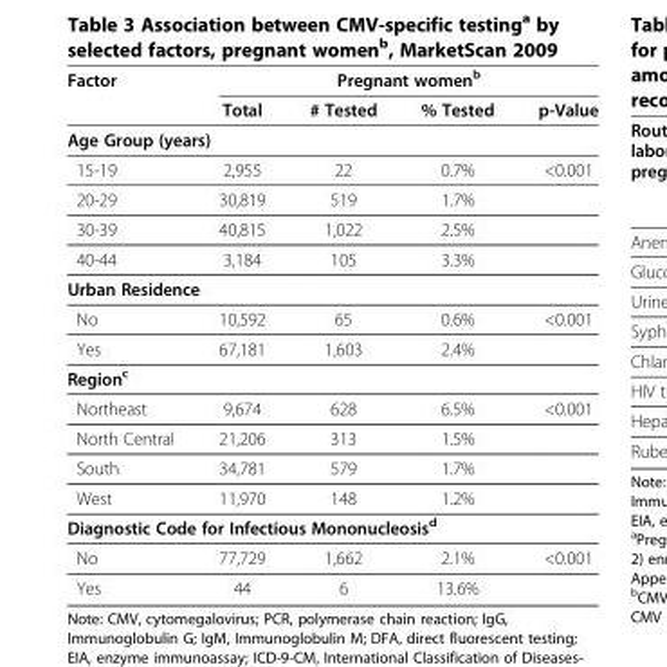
<table><thead><tr><td rowspan="2">Factor</td><td colspan="4">Pregnant women<sup>b</sup></td></tr><tr><td>Total</td><td># Tested</td><td>% Tested</td><td>p-Value</td></tr></thead><tbody><tr><td colspan="5">Age Group (years)</td></tr><tr><td>15-19</td><td>2,955</td><td>22</td><td>0.7%</td><td>&lt;0.001</td></tr><tr><td>20-29</td><td>30,819</td><td>519</td><td>1.7%</td><td></td></tr><tr><td>30-39</td><td>40,815</td><td>1,022</td><td>2.5%</td><td></td></tr><tr><td>40-44</td><td>3,184</td><td>105</td><td>3.3%</td><td></td></tr><tr><td colspan="5">Urban Residence</td></tr><tr><td>No</td><td>10,592</td><td>65</td><td>0.6%</td><td>&lt;0.001</td></tr><tr><td>Yes</td><td>67,181</td><td>1,603</td><td>2.4%</td><td></td></tr><tr><td colspan="5">Region<sup>c</sup></td></tr><tr><td>Northeast</td><td>9,674</td><td>628</td><td>6.5%</td><td>&lt;0.001</td></tr><tr><td>North Central</td><td>21,206</td><td>313</td><td>1.5%</td><td></td></tr><tr><td>South</td><td>34,781</td><td>579</td><td>1.7%</td><td></td></tr><tr><td>West</td><td>11,970</td><td>148</td><td>1.2%</td><td></td></tr><tr><td colspan="5">Diagnostic Code for Infectious Mononucleosis<sup>d</sup></td></tr><tr><td>No</td><td>77,729</td><td>1,662</td><td>2.1%</td><td>&lt;0.001</td></tr><tr><td>Yes</td><td>44</td><td>6</td><td>13.6%</td><td></td></tr></tbody></table>